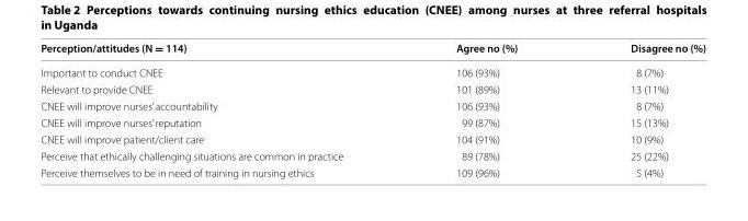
<table><thead><tr><td>Perception/attitudes (N = 114)</td><td>Agree no (%)</td><td>Disagree no (%)</td></tr></thead><tbody><tr><td>Important to conduct CNEE</td><td>106 (93%)</td><td>8 (7%)</td></tr><tr><td>Relevant to provide CNEE</td><td>101 (89%)</td><td>13 (11%)</td></tr><tr><td>CNEE will improve nurses’ accountability</td><td>106 (93%)</td><td>8 (7%)</td></tr><tr><td>CNEE will improve nurses’ reputation</td><td>99 (87%)</td><td>15 (13%)</td></tr><tr><td>CNEE will improve patient/client care</td><td>104 (91%)</td><td>10 (9%)</td></tr><tr><td>Perceive that ethically challenging situations are common in practice</td><td>89 (78%)</td><td>25 (22%)</td></tr><tr><td>Perceive themselves to be in need of training in nursing ethics</td><td>109 (96%)</td><td>5 (4%)</td></tr></tbody></table>